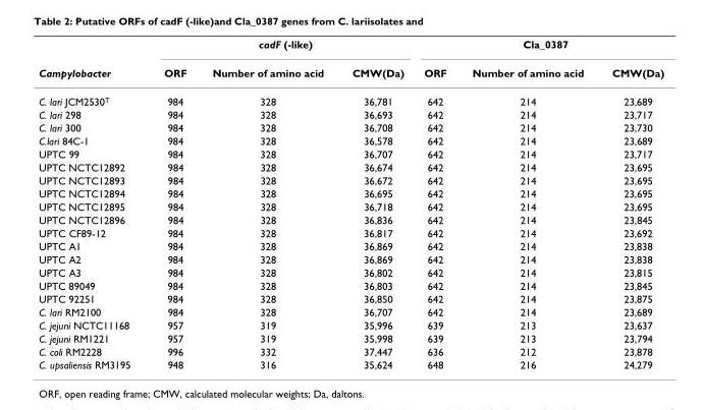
<table><thead><tr><td rowspan="2">Campylobacter</td><td colspan="3">cadF (-like)</td><td colspan="3">Cla_0387</td></tr><tr><td>ORF</td><td>Number of amino acid</td><td>CMW(Da)</td><td>ORF</td><td>Number of amino acid</td><td>CMW(Da)</td></tr></thead><tbody><tr><td>C. lari JCM2530<sup>T</sup></td><td>984</td><td>328</td><td>36,781</td><td>642</td><td>214</td><td>23,689</td></tr><tr><td>C. lari 298</td><td>984</td><td>328</td><td>36,693</td><td>642</td><td>214</td><td>23,717</td></tr><tr><td>C. lari 300</td><td>984</td><td>328</td><td>36,708</td><td>642</td><td>214</td><td>23,730</td></tr><tr><td>C.lari 84C-1</td><td>984</td><td>328</td><td>36,578</td><td>642</td><td>214</td><td>23,689</td></tr><tr><td>UPTC 99</td><td>984</td><td>328</td><td>36,707</td><td>642</td><td>214</td><td>23,717</td></tr><tr><td>UPTC NCTC12892</td><td>984</td><td>328</td><td>36,674</td><td>642</td><td>214</td><td>23,695</td></tr><tr><td>UPTC NCTC12893</td><td>984</td><td>328</td><td>36,672</td><td>642</td><td>214</td><td>23,695</td></tr><tr><td>UPTC NCTC12894</td><td>984</td><td>328</td><td>36,695</td><td>642</td><td>214</td><td>23,695</td></tr><tr><td>UPTC NCTC12895</td><td>984</td><td>328</td><td>36,718</td><td>642</td><td>214</td><td>23,695</td></tr><tr><td>UPTC NCTC12896</td><td>984</td><td>328</td><td>36,836</td><td>642</td><td>214</td><td>23,845</td></tr><tr><td>UPTC CF89-12</td><td>984</td><td>328</td><td>36,817</td><td>642</td><td>214</td><td>23,692</td></tr><tr><td>UPTC A1</td><td>984</td><td>328</td><td>36,869</td><td>642</td><td>214</td><td>23,838</td></tr><tr><td>UPTC A2</td><td>984</td><td>328</td><td>36,869</td><td>642</td><td>214</td><td>23,838</td></tr><tr><td>UPTC A3</td><td>984</td><td>328</td><td>36,802</td><td>642</td><td>214</td><td>23,815</td></tr><tr><td>UPTC 89049</td><td>984</td><td>328</td><td>36,803</td><td>642</td><td>214</td><td>23,845</td></tr><tr><td>UPTC 92251</td><td>984</td><td>328</td><td>36,850</td><td>642</td><td>214</td><td>23,875</td></tr><tr><td>C. lari RM2100</td><td>984</td><td>328</td><td>36,707</td><td>642</td><td>214</td><td>23,689</td></tr><tr><td>C. jejuni NCTC11168</td><td>957</td><td>319</td><td>35,996</td><td>639</td><td>213</td><td>23,637</td></tr><tr><td>C. jejuni RM1221</td><td>957</td><td>319</td><td>35,998</td><td>639</td><td>213</td><td>23,794</td></tr><tr><td>C. coli RM2228</td><td>996</td><td>332</td><td>37,447</td><td>636</td><td>212</td><td>23,878</td></tr><tr><td>C. upsaliensis RM3195</td><td>948</td><td>316</td><td>35,624</td><td>648</td><td>216</td><td>24,279</td></tr></tbody></table>